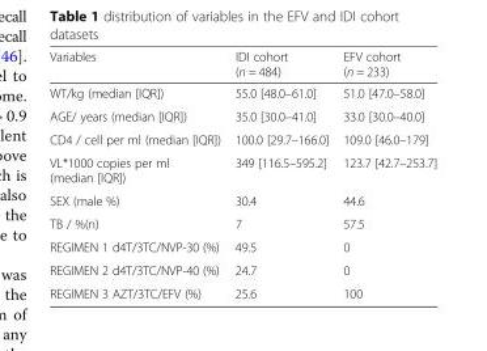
<table><thead><tr><td>Variables</td><td>IDI cohort (n = 484)</td><td>EFV cohort (n = 233)</td></tr></thead><tbody><tr><td>WT/kg (median [IQR])</td><td>55.0 [48.0–61.0]</td><td>51.0 [47.0–58.0]</td></tr><tr><td>AGE/ years (median [IQR])</td><td>35.0 [30.0–41.0]</td><td>33.0 [30.0–40.0]</td></tr><tr><td>CD4 / cell per ml (median [IQR])</td><td>100.0 [29.7–166.0]</td><td>109.0 [46.0–179]</td></tr><tr><td>VL*1000 copies per ml (median [IQR])</td><td>349 [116.5–595.2]</td><td>123.7 [42.7–253.7]</td></tr><tr><td>SEX (male %)</td><td>30.4</td><td>44.6</td></tr><tr><td>TB / %(n)</td><td>7</td><td>57.5</td></tr><tr><td>REGIMEN 1 d4T/3TC/NVP-30 (%)</td><td>49.5</td><td>0</td></tr><tr><td>REGIMEN 2 d4T/3TC/NVP-40 (%)</td><td>24.7</td><td>0</td></tr><tr><td>REGIMEN 3 AZT/3TC/EFV (%)</td><td>25.6</td><td>100</td></tr></tbody></table>